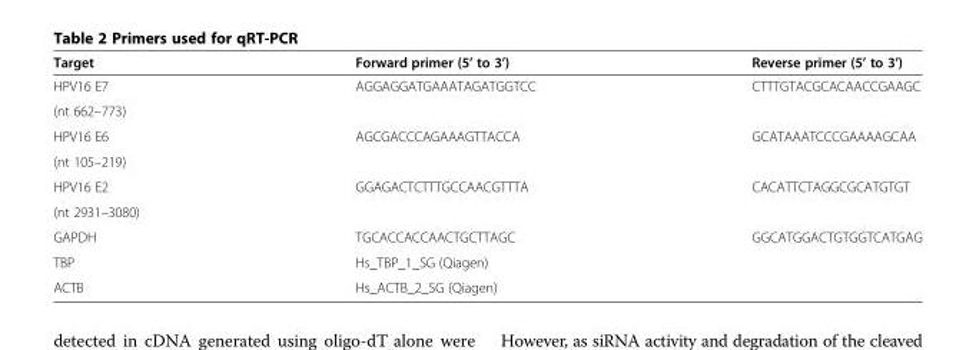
<table><thead><tr><td>Target</td><td>Forward primer (5’ to 3’)</td><td>Reverse primer (5’ to 3’)</td></tr></thead><tbody><tr><td>HPV16 E7</td><td rowspan="2">AGGAGGATGAAATAGATGGTCC</td><td rowspan="2">CTTTGTACGCACAACCGAAGC</td></tr><tr><td>(nt 662–773)</td></tr><tr><td>HPV16 E6</td><td rowspan="2">AGCGACCCAGAAAGTTACCA</td><td rowspan="2">GCATAAATCCCGAAAAGCAA</td></tr><tr><td>(nt 105–219)</td></tr><tr><td>HPV16 E2</td><td rowspan="2">GGAGACTCTTTGCCAACGTTTA</td><td rowspan="2">CACATTCTAGGCGCATGTGT</td></tr><tr><td>(nt 2931–3080)</td></tr><tr><td>GAPDH</td><td>TGCACCACCAACTGCTTAGC</td><td>GGCATGGACTGTGGTCATGAG</td></tr><tr><td>TBP</td><td colspan="2">Hs_TBP_1_SG (Qiagen)</td></tr><tr><td>ACTB</td><td colspan="2">Hs_ACTB_2_SG (Qiagen)</td></tr></tbody></table>